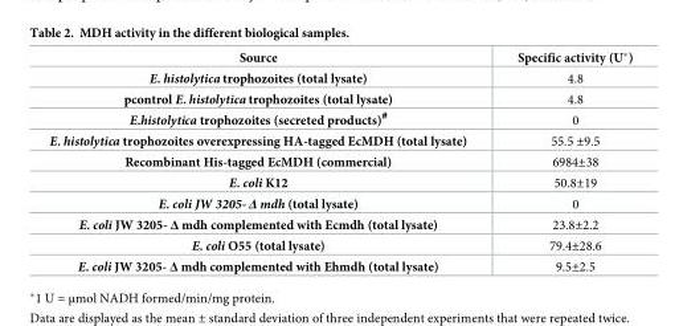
<table><thead><tr><td>Source</td><td>Specific activity (U*)</td></tr></thead><tbody><tr><td>E. histolytica trophozoites (total lysate)</td><td>4.8</td></tr><tr><td>pcontrol E. histolytica trophozoites (total lysate)</td><td>4.8</td></tr><tr><td>E.histolytica trophozoites (secreted products)#</td><td>0</td></tr><tr><td>E. histolytica trophozoites overexpressing HA-tagged EcMDH (total lysate)</td><td>55.5 ±9.5</td></tr><tr><td>Recombinant His-tagged EcMDH (commercial)</td><td>6984±38</td></tr><tr><td>E. coli K12</td><td>50.8±19</td></tr><tr><td>E. coli JW 3205- Δ mdh (total lysate)</td><td>0</td></tr><tr><td>E. coli JW 3205- Δ mdh complemented with Ecmdh (total lysate)</td><td>23.8±2.2</td></tr><tr><td>E. coli O55 (total lysate)</td><td>79.4±28.6</td></tr><tr><td>E. coli JW 3205- Δ mdh complemented with Ehmdh (total lysate)</td><td>9.5±2.5</td></tr></tbody></table>